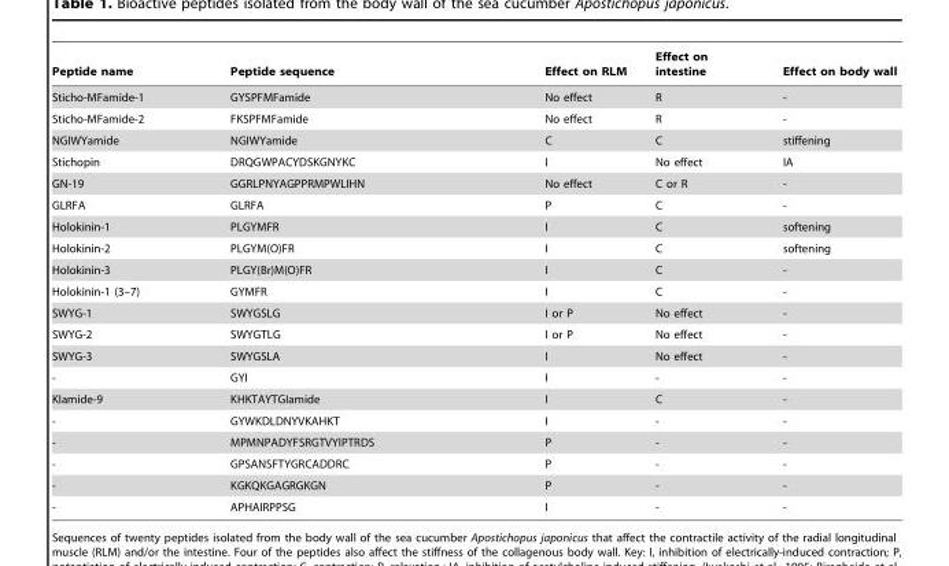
<table><thead><tr><td>Peptide name</td><td>Peptide sequence</td><td>Effect on RLM</td><td>Effect on intestine</td><td>Effect on body wall</td></tr></thead><tbody><tr><td>Sticho-MFamide-1</td><td>GYSPFMFamide</td><td>No effect</td><td>R</td><td>-</td></tr><tr><td>Sticho-MFamide-2</td><td>FKSPFMFamide</td><td>No effect</td><td>R</td><td>-</td></tr><tr><td>NGIWYamide</td><td>NGIWYamide</td><td>C</td><td>C</td><td>stiffening</td></tr><tr><td>Stichopin</td><td>DRQGWPACYDSKGNYKC</td><td>I</td><td>No effect</td><td>IA</td></tr><tr><td>GN-19</td><td>GGRLPNYAGPPRMPWLIHN</td><td>No effect</td><td>C or R</td><td>-</td></tr><tr><td>GLRFA</td><td>GLRFA</td><td>P</td><td>C</td><td>-</td></tr><tr><td>Holokinin-1</td><td>PLGYMFR</td><td>I</td><td>C</td><td>softening</td></tr><tr><td>Holokinin-2</td><td>PLGYM(O)FR</td><td>I</td><td>C</td><td>softening</td></tr><tr><td>Holokinin-3</td><td>PLGY(Br)M(O)FR</td><td>I</td><td>C</td><td>-</td></tr><tr><td>Holokinin-1 (3–7)</td><td>GYMFR</td><td>I</td><td>C</td><td>-</td></tr><tr><td>SWYG-1</td><td>SWYGSLG</td><td>I or P</td><td>No effect</td><td>-</td></tr><tr><td>SWYG-2</td><td>SWYGTLG</td><td>I or P</td><td>No effect</td><td>-</td></tr><tr><td>SWYG-3</td><td>SWYGSLA</td><td>I</td><td>No effect</td><td>-</td></tr><tr><td>-</td><td>GYI</td><td>I</td><td>-</td><td>-</td></tr><tr><td>KIamide-9</td><td>KHKTAYTGIamide</td><td>I</td><td>C</td><td>-</td></tr><tr><td>-</td><td>GYWKDLDNYVKAHKT</td><td>I</td><td>-</td><td>-</td></tr><tr><td>-</td><td>MPMNPADYFSRGTVYIPTRDS</td><td>P</td><td>-</td><td>-</td></tr><tr><td>-</td><td>GPSANSFTYGRCADDRC</td><td>P</td><td>-</td><td>-</td></tr><tr><td>-</td><td>KGKQKGAGRGKGN</td><td>P</td><td>-</td><td>-</td></tr><tr><td>-</td><td>APHAIRPPSG</td><td>I</td><td>-</td><td>-</td></tr></tbody></table>